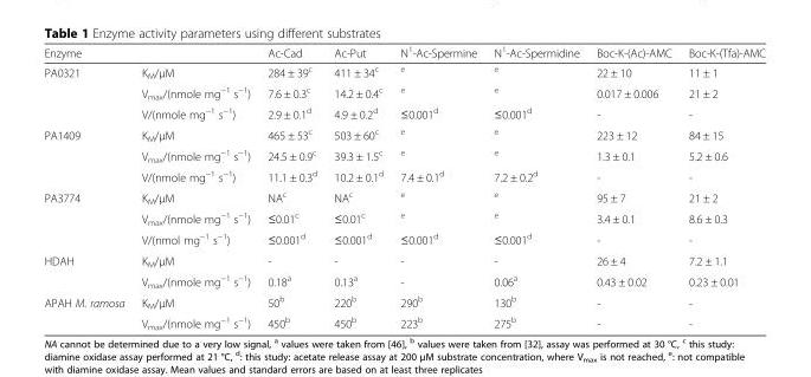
<table><thead><tr><td>Enzyme</td><td></td><td>Ac-Cad</td><td>Ac-Put</td><td>N<sup>1</sup>-Ac-Spermine</td><td>N<sup>1</sup>-Ac-Spermidine</td><td>Boc-K-(Ac)-AMC</td><td>Boc-K-(Tfa)-AMC</td></tr></thead><tbody><tr><td rowspan="3">PA0321</td><td>K<sub>M</sub>/μM</td><td>284 ± 39<sup>c</sup></td><td>411 ± 34<sup>c</sup></td><td><sup>e</sup></td><td><sup>e</sup></td><td>22 ± 10</td><td>11 ± 1</td></tr><tr><td>V<sub>max</sub>/(nmole mg<sup>−1</sup> s<sup>−1</sup>)</td><td>7.6 ± 0.3<sup>c</sup></td><td>14.2 ± 0.4<sup>c</sup></td><td><sup>e</sup></td><td><sup>e</sup></td><td>0.017 ± 0.006</td><td>21 ± 2</td></tr><tr><td>V/(nmole mg<sup>−1</sup> s<sup>−1</sup>)</td><td>2.9 ± 0.1<sup>d</sup></td><td>4.9 ± 0.2<sup>d</sup></td><td>≤0.001<sup>d</sup></td><td>≤0.001<sup>d</sup></td><td>-</td><td>-</td></tr><tr><td rowspan="3">PA1409</td><td>K<sub>M</sub>/μM</td><td>465 ± 53<sup>c</sup></td><td>503 ± 60<sup>c</sup></td><td><sup>e</sup></td><td><sup>e</sup></td><td>223 ± 12</td><td>84 ± 15</td></tr><tr><td>V<sub>max</sub>/(nmole mg<sup>−1</sup> s<sup>−1</sup>)</td><td>24.5 ± 0.9<sup>c</sup></td><td>39.3 ± 1.5<sup>c</sup></td><td><sup>e</sup></td><td><sup>e</sup></td><td>1.3 ± 0.1</td><td>5.2 ± 0.6</td></tr><tr><td>V/(nmole mg<sup>−1</sup> s<sup>−1</sup>)</td><td>11.1 ± 0.3<sup>d</sup></td><td>10.2 ± 0.1<sup>d</sup></td><td>7.4 ± 0.1<sup>d</sup></td><td>7.2 ± 0.2<sup>d</sup></td><td>-</td><td>-</td></tr><tr><td rowspan="3">PA3774</td><td>K<sub>M</sub>/μM</td><td>NA<sup>c</sup></td><td>NA<sup>c</sup></td><td><sup>e</sup></td><td><sup>e</sup></td><td>95 ± 7</td><td>21 ± 2</td></tr><tr><td>V<sub>max</sub>/(nmole mg<sup>−1</sup> s<sup>−1</sup>)</td><td>≤0.01<sup>c</sup></td><td>≤0.01<sup>c</sup></td><td><sup>e</sup></td><td><sup>e</sup></td><td>3.4 ± 0.1</td><td>8.6 ± 0.3</td></tr><tr><td>V/(nmol mg<sup>−1</sup> s<sup>−1</sup>)</td><td>≤0.001<sup>d</sup></td><td>≤0.001<sup>d</sup></td><td>≤0.001<sup>d</sup></td><td>≤0.001<sup>d</sup></td><td>-</td><td>-</td></tr><tr><td rowspan="2">HDAH</td><td>K<sub>M</sub>/μM</td><td>-</td><td>-</td><td>-</td><td>-</td><td>26 ± 4</td><td>7.2 ± 1.1</td></tr><tr><td>V<sub>max</sub>/(nmole mg<sup>−1</sup> s<sup>−1</sup>)</td><td>0.18<sup>a</sup></td><td>0.13<sup>a</sup></td><td>-</td><td>0.06<sup>a</sup></td><td>0.43 ± 0.02</td><td>0.23 ± 0.01</td></tr><tr><td rowspan="2">APAH M. ramosa</td><td>K<sub>M</sub>/μM</td><td>50<sup>b</sup></td><td>220<sup>b</sup></td><td>290<sup>b</sup></td><td>130<sup>b</sup></td><td>-</td><td>-</td></tr><tr><td>V<sub>max</sub>/(nmole mg<sup>−1</sup> s<sup>−1</sup>)</td><td>450<sup>b</sup></td><td>450<sup>b</sup></td><td>223<sup>b</sup></td><td>275<sup>b</sup></td><td>-</td><td>-</td></tr></tbody></table>